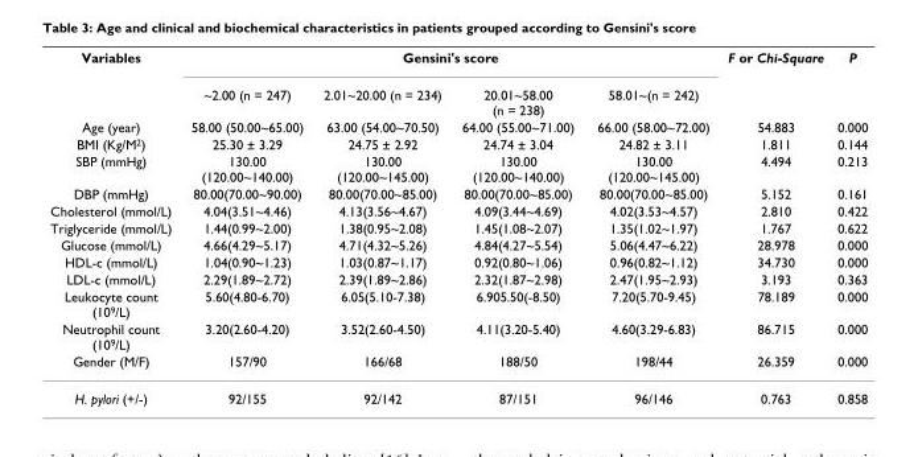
<table><thead><tr><td rowspan="14">Variables Age (year) BMI (Kg/M2) SBP (mmHg) DBP (mmHg) Cholesterol (mmol/L) Triglyceride (mmol/L) Glucose (mmol/L) HDL-c (mmol/L) LDL-c (mmol/L) Leukocyte count (109/L) Neutrophil count (109/L) Gender (M/F)</td><td colspan="4">Gensini&#x27;s score</td><td rowspan="14">F or Chi-Square 54.883 1.811 4.494 5.152 2.810 1.767 28.978 34.730 3.193 78.189 86.715 26.359</td><td rowspan="14">P 0.000 0.144 0.213 0.161 0.422 0.622 0.000 0.000 0.363 0.000 0.000 0.000</td></tr><tr><td rowspan="13">~2.00 (n = 247) 58.00 (50.00~65.00) 25.30 ± 3.29 130.00 (120.00~140.00) 80.00(70.00~90.00) 4.04(3.51~4.46) 1.44(0.99~2.00) 4.66(4.29~5.17) 1.04(0.90~1.23) 2.29(1.89~2.72) 5.60(4.80-6.70) 3.20(2.60-4.20) 157/90</td><td rowspan="13">2.01~20.00 (n = 234) 63.00 (54.00~70.50) 24.75 ± 2.92 130.00 (120.00~145.00) 80.00(70.00~85.00) 4.13(3.56~4.67) 1.38(0.95~2.08) 4.71(4.32~5.26) 1.03(0.87~1.17) 2.39(1.89~2.86) 6.05(5.10-7.38) 3.52(2.60-4.50) 166/68</td><td rowspan="13">20.01~58.00 (n = 238) 64.00 (55.00~71.00) 24.74 ± 3.04 130.00 (120.00~140.00) 80.00(70.00~85.00) 4.09(3.44~4.69) 1.45(1.08~2.07) 4.84(4.27~5.54) 0.92(0.80~1.06) 2.32(1.87~2.98) 6.905.50(-8.50) 4.11(3.20-5.40) 188/50</td><td rowspan="13">58.01~(n = 242) 66.00 (58.00~72.00) 24.82 ± 3.11 130.00 (120.00~145.00) 80.00(70.00~85.00) 4.02(3.53~4.57) 1.35(1.02~1.97) 5.06(4.47~6.22) 0.96(0.82~1.12) 2.47(1.95~2.93) 7.20(5.70-9.45) 4.60(3.29-6.83) 198/44</td></tr><tr></tr><tr></tr><tr></tr><tr></tr><tr></tr><tr></tr><tr></tr><tr></tr><tr></tr><tr></tr><tr></tr><tr></tr></thead><tbody><tr><td>H. pylori (+/-)</td><td>92/155</td><td>92/142</td><td>87/151</td><td>96/146</td><td>0.763</td><td>0.858</td></tr></tbody></table>